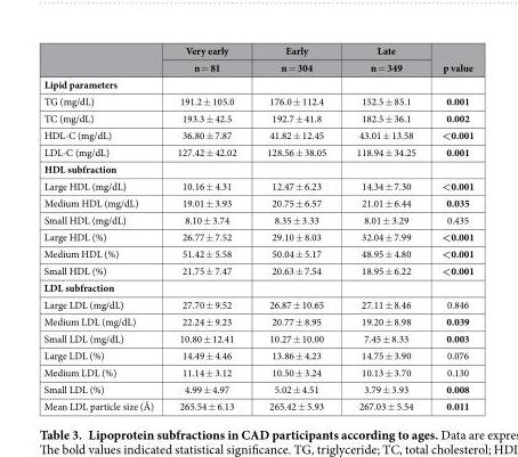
<table><thead><tr><td rowspan="2"></td><td rowspan="2">Very early n = 81</td><td rowspan="2">Early n = 304</td><td rowspan="2">Late n = 349</td><td rowspan="2">p value</td></tr><tr></tr></thead><tbody><tr><td colspan="5">Lipid parameters</td></tr><tr><td>TG (mg/dL)</td><td>191.2 ± 105.0</td><td>176.0 ± 112.4</td><td>152.5 ± 85.1</td><td>0.001</td></tr><tr><td>TC (mg/dL)</td><td>193.3 ± 42.5</td><td>192.7 ± 41.8</td><td>182.5 ± 36.1</td><td>0.002</td></tr><tr><td>HDL-C (mg/dL)</td><td>36.80 ± 7.87</td><td>41.82 ± 12.45</td><td>43.01 ± 13.58</td><td>&lt;0.001</td></tr><tr><td>LDL-C (mg/dL)</td><td>127.42 ± 42.02</td><td>128.56 ± 38.05</td><td>118.94 ± 34.25</td><td>0.001</td></tr><tr><td colspan="5">HDL subfraction</td></tr><tr><td>Large HDL (mg/dL)</td><td>10.16 ± 4.31</td><td>12.47 ± 6.23</td><td>14.34 ± 7.30</td><td>&lt;0.001</td></tr><tr><td>Medium HDL (mg/dL)</td><td>19.01 ± 3.93</td><td>20.75 ± 6.57</td><td>21.01 ± 6.44</td><td>0.035</td></tr><tr><td>Small HDL (mg/dL)</td><td>8.10 ± 3.74</td><td>8.35 ± 3.33</td><td>8.01 ± 3.29</td><td>0.435</td></tr><tr><td>Large HDL (%)</td><td>26.77 ± 7.52</td><td>29.10 ± 8.03</td><td>32.04 ± 7.99</td><td>&lt;0.001</td></tr><tr><td>Medium HDL (%)</td><td>51.42 ± 5.58</td><td>50.04 ± 5.17</td><td>48.95 ± 4.80</td><td>&lt;0.001</td></tr><tr><td>Small HDL (%)</td><td>21.75 ± 7.47</td><td>20.63 ± 7.54</td><td>18.95 ± 6.22</td><td>&lt;0.001</td></tr><tr><td colspan="5">LDL subfraction</td></tr><tr><td>Large LDL (mg/dL)</td><td>27.70 ± 9.52</td><td>26.87 ± 10.65</td><td>27.11 ± 8.46</td><td>0.846</td></tr><tr><td>Medium LDL (mg/dL)</td><td>22.24 ± 9.23</td><td>20.77 ± 8.95</td><td>19.20 ± 8.98</td><td>0.039</td></tr><tr><td>Small LDL (mg/dL)</td><td>10.80 ± 12.41</td><td>10.27 ± 10.00</td><td>7.45 ± 8.33</td><td>0.003</td></tr><tr><td>Large LDL (%)</td><td>14.49 ± 4.46</td><td>13.86 ± 4.23</td><td>14.75 ± 3.90</td><td>0.076</td></tr><tr><td>Medium LDL (%)</td><td>11.14 ± 3.12</td><td>10.50 ± 3.24</td><td>10.13 ± 3.70</td><td>0.130</td></tr><tr><td>Small LDL (%)</td><td>4.99 ± 4.97</td><td>5.02 ± 4.51</td><td>3.79 ± 3.93</td><td>0.008</td></tr><tr><td>Mean LDL particle size (Å)</td><td>265.54 ± 6.13</td><td>265.42 ± 5.93</td><td>267.03 ± 5.54</td><td>0.011</td></tr></tbody></table>